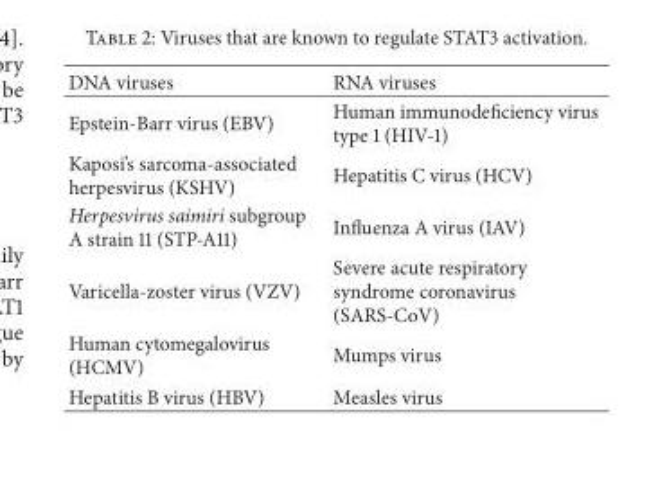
<table><thead><tr><td>DNA viruses</td><td>RNA viruses</td></tr></thead><tbody><tr><td>Epstein-Barr virus (EBV)</td><td>Human immunodeficiency virus type 1 (HIV-1)</td></tr><tr><td>Kaposi’s sarcoma-associated herpesvirus (KSHV)</td><td>Hepatitis C virus (HCV)</td></tr><tr><td>Herpesvirus saimiri subgroup A strain 11 (STP-A11)</td><td>Influenza A virus (IAV)</td></tr><tr><td>Varicella-zoster virus (VZV)</td><td>Severe acute respiratory syndrome coronavirus (SARS-CoV)</td></tr><tr><td>Human cytomegalovirus (HCMV)</td><td>Mumps virus</td></tr><tr><td>Hepatitis B virus (HBV)</td><td>Measles virus</td></tr></tbody></table>